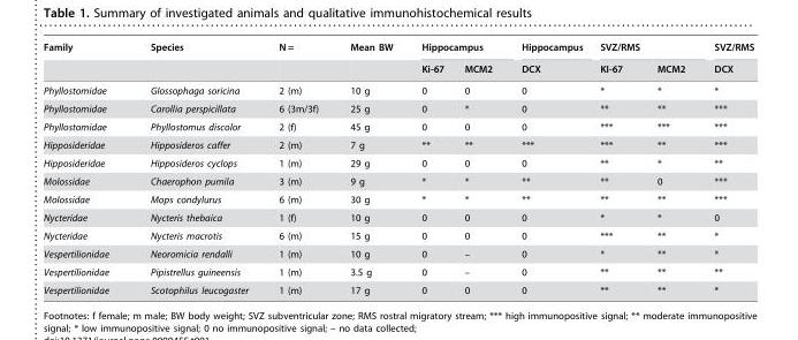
<table><thead><tr><td rowspan="2">Family</td><td rowspan="2">Species</td><td rowspan="2">N =</td><td rowspan="2">Mean BW</td><td colspan="2">Hippocampus</td><td rowspan="2">Hippocampus DCX</td><td colspan="2">SVZ/RMS</td><td rowspan="2">SVZ/RMS DCX</td></tr><tr><td>Ki-67</td><td>MCM2</td><td>KI-67</td><td>MCM2</td></tr></thead><tbody><tr><td>Phyllostomidae</td><td>Glossophaga soricina</td><td>2 (m)</td><td>10 g</td><td>0</td><td>0</td><td>0</td><td>*</td><td>*</td><td>*</td></tr><tr><td>Phyllostomidae</td><td>Carollia perspicillata</td><td>6 (3m/3f)</td><td>25 g</td><td>0</td><td>*</td><td>0</td><td>**</td><td>**</td><td>***</td></tr><tr><td>Phyllostomidae</td><td>Phyllostomus discolor</td><td>2 (f)</td><td>45 g</td><td>0</td><td>0</td><td>0</td><td>***</td><td>***</td><td>***</td></tr><tr><td>Hipposideridae</td><td>Hipposideros caffer</td><td>2 (m)</td><td>7 g</td><td>**</td><td>**</td><td>***</td><td>***</td><td>**</td><td>***</td></tr><tr><td>Hipposideridae</td><td>Hipposideros cyclops</td><td>1 (m)</td><td>29 g</td><td>0</td><td>0</td><td>0</td><td>**</td><td>*</td><td>**</td></tr><tr><td>Molossidae</td><td>Chaerophon pumila</td><td>3 (m)</td><td>9 g</td><td>*</td><td>*</td><td>**</td><td>**</td><td>0</td><td>***</td></tr><tr><td>Molossidae</td><td>Mops condylurus</td><td>6 (m)</td><td>30 g</td><td>*</td><td>*</td><td>**</td><td>**</td><td>**</td><td>***</td></tr><tr><td>Nycteridae</td><td>Nycteris thebaica</td><td>1 (f)</td><td>10 g</td><td>0</td><td>0</td><td>0</td><td>*</td><td>*</td><td>0</td></tr><tr><td>Nycteridae</td><td>Nycteris macrotis</td><td>6 (m)</td><td>15 g</td><td>0</td><td>0</td><td>0</td><td>***</td><td>**</td><td>*</td></tr><tr><td>Vespertilionidae</td><td>Neoromicia rendalli</td><td>1 (m)</td><td>10 g</td><td>0</td><td>–</td><td>0</td><td>*</td><td>**</td><td>*</td></tr><tr><td>Vespertilionidae</td><td>Pipistrellus guineensis</td><td>1 (m)</td><td>3.5 g</td><td>0</td><td>–</td><td>0</td><td>**</td><td>**</td><td>**</td></tr><tr><td>Vespertilionidae</td><td>Scotophilus leucogaster</td><td>1 (m)</td><td>17 g</td><td>0</td><td>0</td><td>0</td><td>**</td><td>**</td><td>*</td></tr></tbody></table>